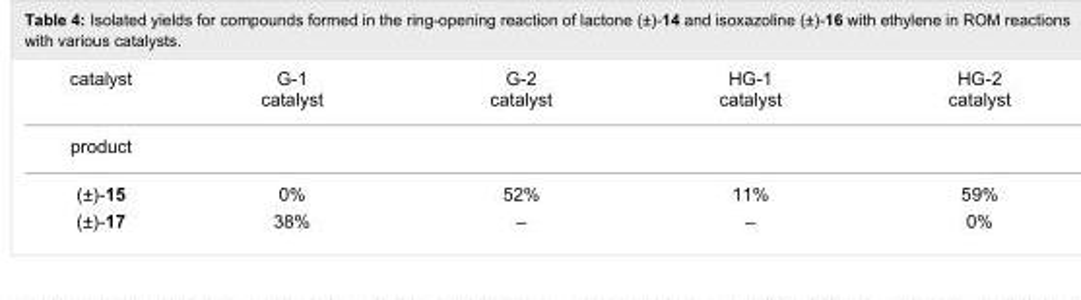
<table><tbody><tr><td>catalyst</td><td>G-1 catalyst</td><td>G-2 catalyst</td><td>HG-1 catalyst</td><td>HG-2 catalyst</td></tr><tr><td colspan="5">product</td></tr><tr><td>(±)-15</td><td>0%</td><td>52%</td><td>11%</td><td>59%</td></tr><tr><td>(±)-17</td><td>38%</td><td>–</td><td>–</td><td>0%</td></tr></tbody></table>